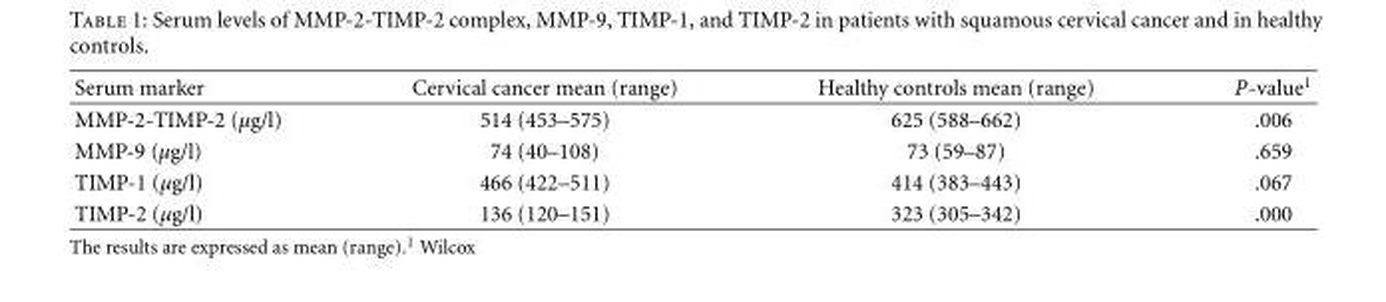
<table><thead><tr><td>Serum marker</td><td>Cervical cancer mean (range)</td><td>Healthy controls mean (range)</td><td>P-value<sup>1</sup></td></tr></thead><tbody><tr><td>MMP-2-TIMP-2 (µg/l)</td><td>514 (453–575)</td><td>625 (588–662)</td><td>.006</td></tr><tr><td>MMP-9 (µg/l)</td><td>74 (40–108)</td><td>73 (59–87)</td><td>.659</td></tr><tr><td>TIMP-1 (µg/l)</td><td>466 (422–511)</td><td>414 (383–443)</td><td>.067</td></tr><tr><td>TIMP-2 (µg/l)</td><td>136 (120–151)</td><td>323 (305–342)</td><td>.000</td></tr></tbody></table>